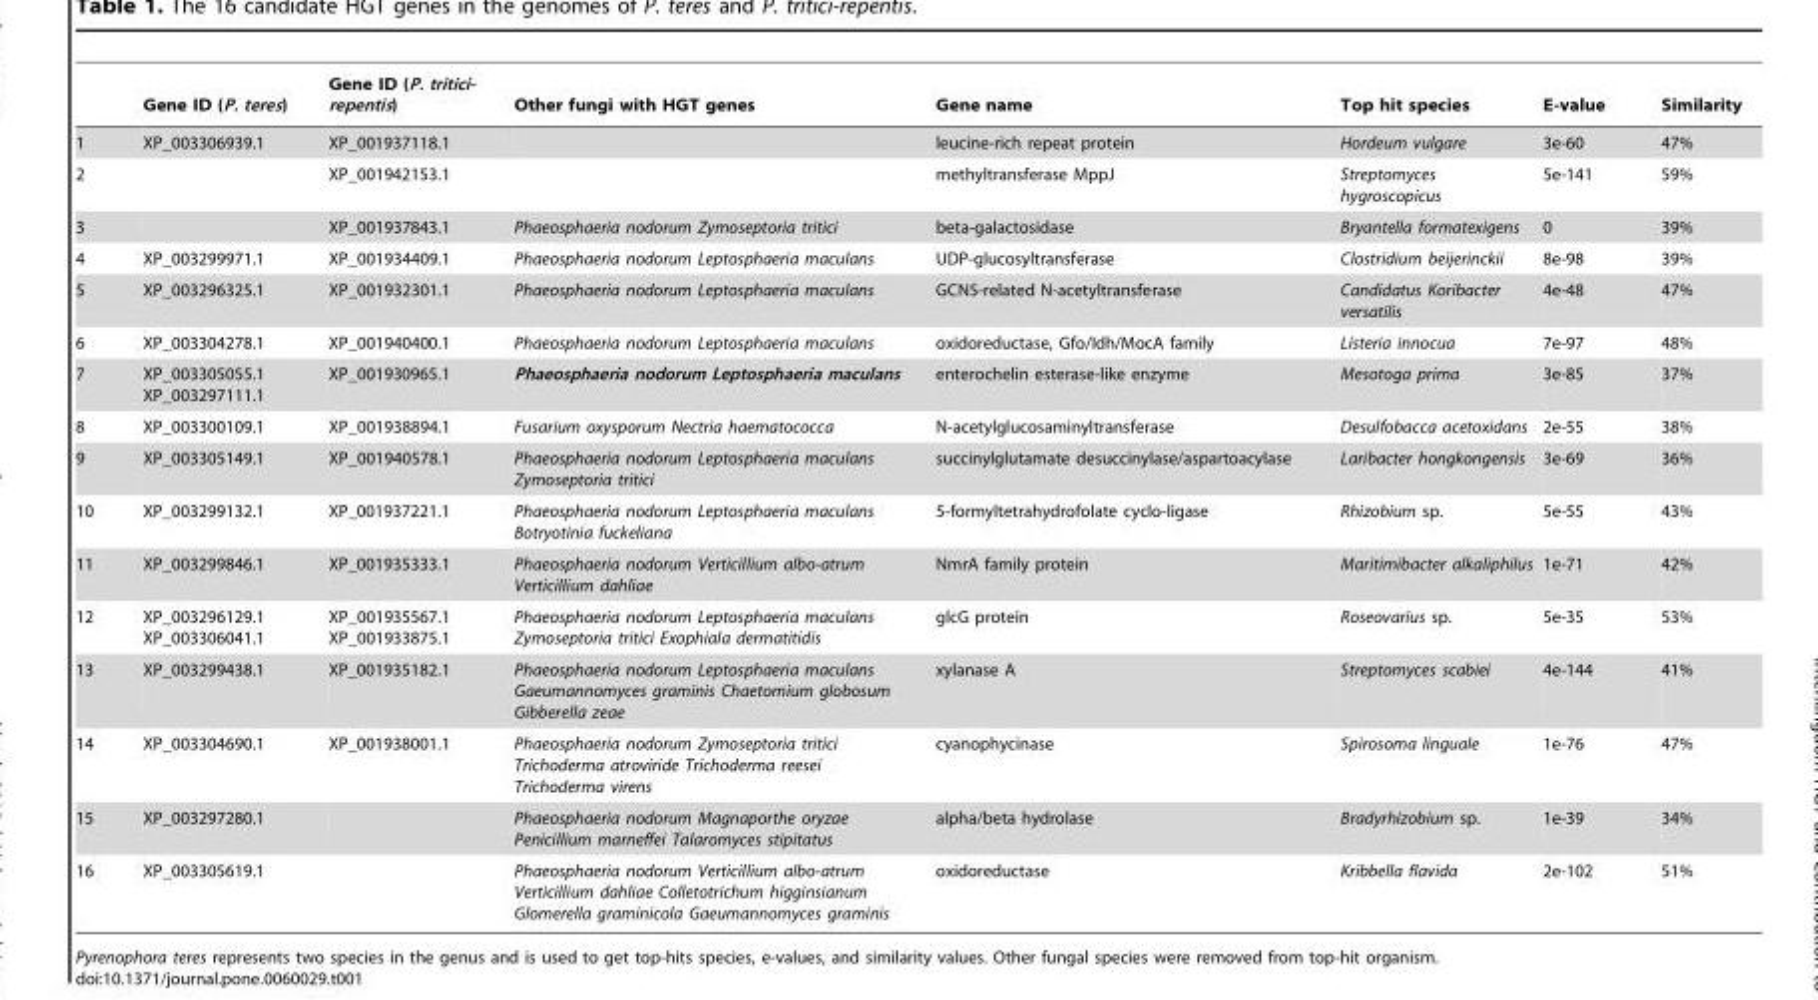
<table><thead><tr><td></td><td>Gene ID (P. teres)</td><td>Gene ID (P. tritici- repentis)</td><td>Other fungi with HGT genes</td><td>Gene name</td><td>Top hit species</td><td>E-value</td><td>Similarity</td></tr></thead><tbody><tr><td>1</td><td>XP_003306939.1</td><td>XP_001937118.1</td><td></td><td>leucine-rich repeat protein</td><td>Hordeum vulgare</td><td>3e-60</td><td>47%</td></tr><tr><td>2</td><td></td><td>XP_001942153.1</td><td></td><td>methyltransferase MppJ</td><td>Streptomyces hygroscopicus</td><td>5e-141</td><td>59%</td></tr><tr><td>3</td><td></td><td>XP_001937843.1</td><td>Phaeosphaeria nodorum Zymoseptoria tritici</td><td>beta-galactosidase</td><td>Bryantella formatexigens</td><td>0</td><td>39%</td></tr><tr><td>4</td><td>XP_003299971.1</td><td>XP_001934409.1</td><td>Phaeosphaeria nodorum Leptosphaeria maculans</td><td>UDP-glucosyltransferase</td><td>Clostridium beijerinckii</td><td>8e-98</td><td>39%</td></tr><tr><td>5</td><td>XP_003296325.1</td><td>XP_001932301.1</td><td>Phaeosphaeria nodorum Leptosphaeria maculans</td><td>GCN5-related N-acetyltransferase</td><td>Candidatus Koribacter versatilis</td><td>4e-48</td><td>47%</td></tr><tr><td>6</td><td>XP_003304278.1</td><td>XP_001940400.1</td><td>Phaeosphaeria nodorum Leptosphaeria maculans</td><td>oxidoreductase, Gfo/Idh/MocA family</td><td>Listeria innocua</td><td>7e-97</td><td>48%</td></tr><tr><td>7</td><td>XP_003305055.1 XP_003297111.1</td><td>XP_001930965.1</td><td>Phaeosphaeria nodorum Leptosphaeria maculans</td><td>enterochelin esterase-like enzyme</td><td>Mesotoga prima</td><td>3e-85</td><td>37%</td></tr><tr><td>8</td><td>XP_003300109.1</td><td>XP_001938894.1</td><td>Fusarium oxysporum Nectria haematococca</td><td>N-acetylglucosaminyltransferase</td><td>Desulfobacca acetoxidans</td><td>2e-55</td><td>38%</td></tr><tr><td>9</td><td>XP_003305149.1</td><td>XP_001940578.1</td><td>Phaeosphaeria nodorum Leptosphaeria maculans Zymoseptoria tritici</td><td>succinylglutamate desuccinylase/aspartoacylase</td><td>Laribacter hongkongensis</td><td>3e-69</td><td>36%</td></tr><tr><td>10</td><td>XP_003299132.1</td><td>XP_001937221.1</td><td>Phaeosphaeria nodorum Leptosphaeria maculans Botryotinia fuckeliana</td><td>5-formyltetrahydrofolate cyclo-ligase</td><td>Rhizobium sp.</td><td>5e-55</td><td>43%</td></tr><tr><td>11</td><td>XP_003299846.1</td><td>XP_001935333.1</td><td>Phaeosphaeria nodorum Verticillium albo-atrum Verticillium dahliae</td><td>NmrA family protein</td><td>Maritimibacter alkaliphilus</td><td>1e-71</td><td>42%</td></tr><tr><td>12</td><td>XP_003296129.1 XP_003306041.1</td><td>XP_001935567.1 XP_001933875.1</td><td>Phaeosphaeria nodorum Leptosphaeria maculans Zymoseptoria tritici Exophiala dermatitidis</td><td>glcG protein</td><td>Roseovarius sp.</td><td>5e-35</td><td>53%</td></tr><tr><td>13</td><td>XP_003299438.1</td><td>XP_001935182.1</td><td>Phaeosphaeria nodorum Leptosphaeria maculans Gaeumannomyces graminis Chaetomium globosum Gibberella zeae</td><td>xylanase A</td><td>Streptomyces scabiei</td><td>4e-144</td><td>41%</td></tr><tr><td>14</td><td>XP_003304690.1</td><td>XP_001938001.1</td><td>Phaeosphaeria nodorum Zymoseptoria tritici Trichoderma atroviride Trichoderma reesei Trichoderma virens</td><td>cyanophycinase</td><td>Spirosoma linguale</td><td>1e-76</td><td>47%</td></tr><tr><td>15</td><td>XP_003297280.1</td><td></td><td>Phaeosphaeria nodorum Magnaporthe oryzae Penicillium marneffei Talaromyces stipitatus</td><td>alpha/beta hydrolase</td><td>Bradyrhizobium sp.</td><td>1e-39</td><td>34%</td></tr><tr><td>16</td><td>XP_003305619.1</td><td></td><td>Phaeosphaeria nodorum Verticillium albo-atrum Verticillium dahliae Colletotrichum higginsianum Glomerella graminicola Gaeumannomyces graminis</td><td>oxidoreductase</td><td>Kribbella flavida</td><td>2e-102</td><td>51%</td></tr></tbody></table>